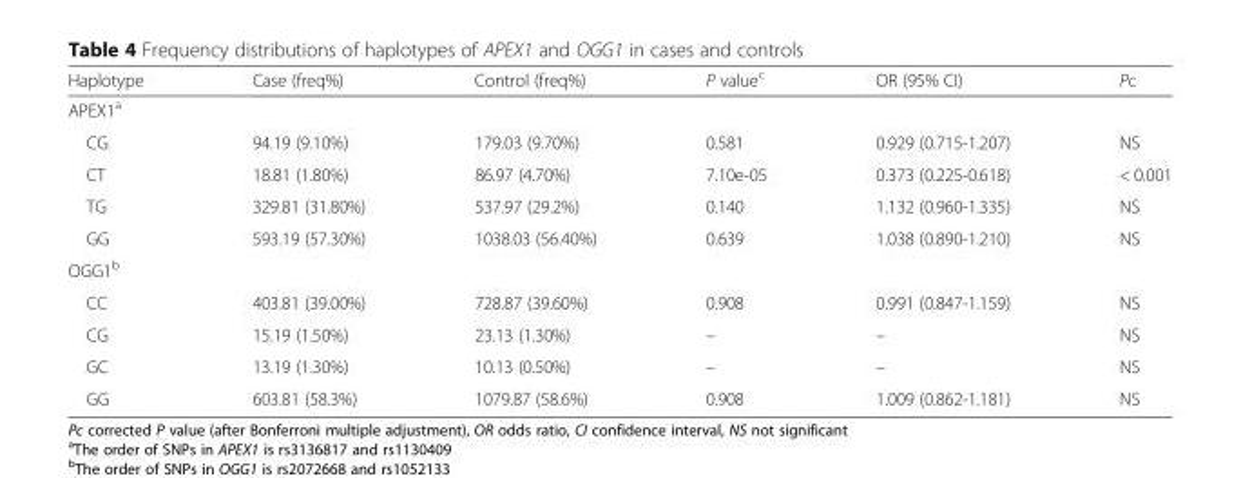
<table><thead><tr><td>Haplotype</td><td>Case (freq%)</td><td>Control (freq%)</td><td>P value<sup>c</sup></td><td>OR (95% CI)</td><td>Pc</td></tr></thead><tbody><tr><td colspan="6">APEX1<sup>a</sup></td></tr><tr><td>CG</td><td>94.19 (9.10%)</td><td>179.03 (9.70%)</td><td>0.581</td><td>0.929 (0.715-1.207)</td><td>NS</td></tr><tr><td>CT</td><td>18.81 (1.80%)</td><td>86.97 (4.70%)</td><td>7.10e-05</td><td>0.373 (0.225-0.618)</td><td>&lt; 0.001</td></tr><tr><td>TG</td><td>329.81 (31.80%)</td><td>537.97 (29.2%)</td><td>0.140</td><td>1.132 (0.960-1.335)</td><td>NS</td></tr><tr><td>GG</td><td>593.19 (57.30%)</td><td>1038.03 (56.40%)</td><td>0.639</td><td>1.038 (0.890-1.210)</td><td>NS</td></tr><tr><td colspan="6">OGG1<sup>b</sup></td></tr><tr><td>CC</td><td>403.81 (39.00%)</td><td>728.87 (39.60%)</td><td>0.908</td><td>0.991 (0.847-1.159)</td><td>NS</td></tr><tr><td>CG</td><td>15.19 (1.50%)</td><td>23.13 (1.30%)</td><td>–</td><td>–</td><td>NS</td></tr><tr><td>GC</td><td>13.19 (1.30%)</td><td>10.13 (0.50%)</td><td>–</td><td>–</td><td>NS</td></tr><tr><td>GG</td><td>603.81 (58.3%)</td><td>1079.87 (58.6%)</td><td>0.908</td><td>1.009 (0.862-1.181)</td><td>NS</td></tr></tbody></table>